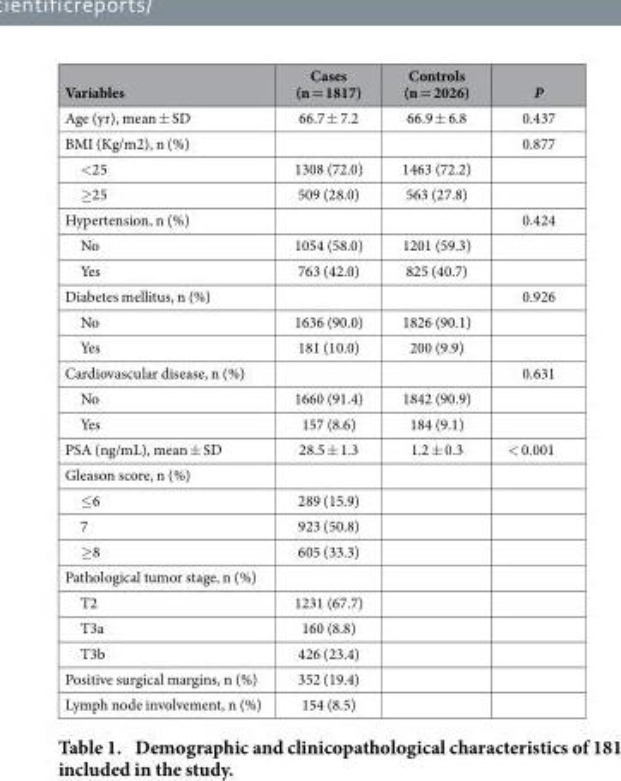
<table><thead><tr><td>Variables</td><td>Cases (n = 1817)</td><td>Controls (n = 2026)</td><td>P</td></tr></thead><tbody><tr><td>Age (yr), mean ± SD</td><td>66.7 ± 7.2</td><td>66.9 ± 6.8</td><td>0.437</td></tr><tr><td>BMI (Kg/m2), n (%)</td><td></td><td></td><td>0.877</td></tr><tr><td>&lt; 25</td><td>1308 (72.0)</td><td>1463 (72.2)</td><td></td></tr><tr><td>≥ 25</td><td>509 (28.0)</td><td>563 (27.8)</td><td></td></tr><tr><td>Hypertension, n (%)</td><td></td><td></td><td>0.424</td></tr><tr><td>No</td><td>1054 (58.0)</td><td>1201 (59.3)</td><td></td></tr><tr><td>Yes</td><td>763 (42.0)</td><td>825 (40.7)</td><td></td></tr><tr><td>Diabetes mellitus, n (%)</td><td></td><td></td><td>0.926</td></tr><tr><td>No</td><td>1636 (90.0)</td><td>1826 (90.1)</td><td></td></tr><tr><td>Yes</td><td>181 (10.0)</td><td>200 (9.9)</td><td></td></tr><tr><td>Cardiovascular disease, n (%)</td><td></td><td></td><td>0.631</td></tr><tr><td>No</td><td>1660 (91.4)</td><td>1842 (90.9)</td><td></td></tr><tr><td>Yes</td><td>157 (8.6)</td><td>184 (9.1)</td><td></td></tr><tr><td>PSA (ng/mL), mean ± SD</td><td>28.5 ± 1.3</td><td>1.2 ± 0.3</td><td>&lt; 0.001</td></tr><tr><td colspan="4">Gleason score, n (%)</td></tr><tr><td>≤ 6</td><td>289 (15.9)</td><td></td><td></td></tr><tr><td>7</td><td>923 (50.8)</td><td></td><td></td></tr><tr><td>≥ 8</td><td>605 (33.3)</td><td></td><td></td></tr><tr><td colspan="4">Pathological tumor stage, n (%)</td></tr><tr><td>T2</td><td>1231 (67.7)</td><td></td><td></td></tr><tr><td>T3a</td><td>160 (8.8)</td><td></td><td></td></tr><tr><td>T3b</td><td>426 (23.4)</td><td></td><td></td></tr><tr><td>Positive surgical margins, n (%)</td><td>352 (19.4)</td><td></td><td></td></tr><tr><td>Lymph node involvement, n (%)</td><td>154 (8.5)</td><td></td><td></td></tr></tbody></table>